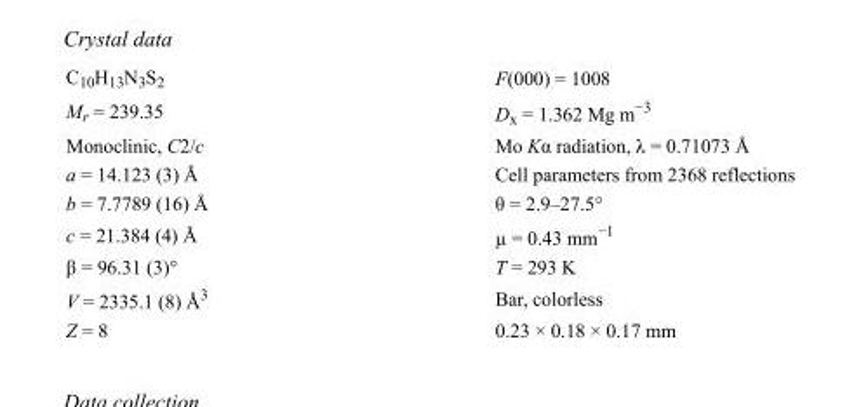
<table><tbody><tr><td>C<sub>10</sub>H<sub>13</sub>N<sub>3</sub>S<sub>2</sub></td><td>F(000) = 1008</td></tr><tr><td>M<sub>r</sub> = 239.35</td><td>D<sub>x</sub> = 1.362 Mg m<sup>−3</sup></td></tr><tr><td>Monoclinic, C2/c</td><td>Mo Kα radiation, λ = 0.71073 Å</td></tr><tr><td>a = 14.123 (3) Å</td><td>Cell parameters from 2368 reflections</td></tr><tr><td>b = 7.7789 (16) Å</td><td>θ = 2.9–27.5°</td></tr><tr><td>c = 21.384 (4) Å</td><td>µ = 0.43 mm<sup>−1</sup></td></tr><tr><td>β = 96.31 (3)°</td><td>T = 293 K</td></tr><tr><td>V = 2335.1 (8) Å<sup>3</sup></td><td>Bar, colorless</td></tr><tr><td>Z = 8</td><td>0.23 × 0.18 × 0.17 mm</td></tr></tbody></table>